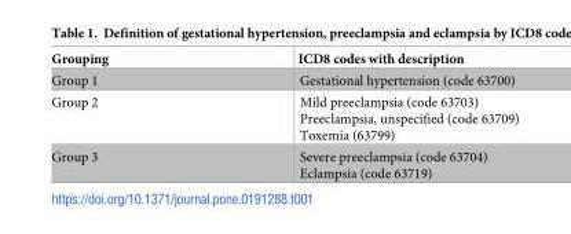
<table><thead><tr><td>Grouping</td><td>ICD8 codes with description</td></tr></thead><tbody><tr><td>Group 1</td><td>Gestational hypertension (code 63700)</td></tr><tr><td>Group 2</td><td>Mild preeclampsia (code 63703) Preeclampsia, unspecified (code 63709) Toxemia (63799)</td></tr><tr><td>Group 3</td><td>Severe preeclampsia (code 63704) Eclampsia (code 63719)</td></tr></tbody></table>